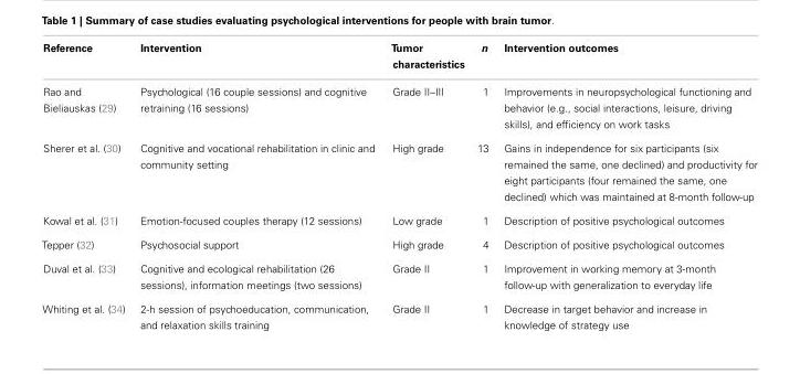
<table><thead><tr><td>Reference</td><td>Intervention</td><td>Tumor characteristics</td><td>n</td><td>Intervention outcomes</td></tr></thead><tbody><tr><td>Rao and Bieliauskas (29)</td><td>Psychological (16 couple sessions) and cognitive retraining (16 sessions)</td><td>Grade II–III</td><td>1</td><td>Improvements in neuropsychological functioning and behavior (e.g., social interactions, leisure, driving skills), and efficiency on work tasks</td></tr><tr><td>Sherer et al. (30)</td><td>Cognitive and vocational rehabilitation in clinic and community setting</td><td>High grade</td><td>13</td><td>Gains in independence for six participants (six remained the same, one declined) and productivity for eight participants (four remained the same, one declined) which was maintained at 8-month follow-up</td></tr><tr><td>Kowal et al. (31)</td><td>Emotion-focused couples therapy (12 sessions)</td><td>Low grade</td><td>1</td><td>Description of positive psychological outcomes</td></tr><tr><td>Tepper (32)</td><td>Psychosocial support</td><td>High grade</td><td>4</td><td>Description of positive psychological outcomes</td></tr><tr><td>Duval et al. (33)</td><td>Cognitive and ecological rehabilitation (26 sessions), information meetings (two sessions)</td><td>Grade II</td><td>1</td><td>Improvement in working memory at 3-month follow-up with generalization to everyday life</td></tr><tr><td>Whiting et al. (34)</td><td>2-h session of psychoeducation, communication, and relaxation skills training</td><td>Grade II</td><td>1</td><td>Decrease in target behavior and increase in knowledge of strategy use</td></tr></tbody></table>